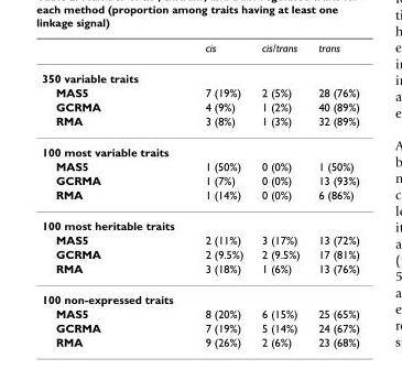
<table><thead><tr><td></td><td>cis</td><td>cis/trans</td><td>trans</td></tr></thead><tbody><tr><td colspan="4">350 variable traits</td></tr><tr><td>MAS5</td><td>7 (19%)</td><td>2 (5%)</td><td>28 (76%)</td></tr><tr><td>GCRMA</td><td>4 (9%)</td><td>1 (2%)</td><td>40 (89%)</td></tr><tr><td>RMA</td><td>3 (8%)</td><td>1 (3%)</td><td>32 (89%)</td></tr><tr><td colspan="4">100 most variable traits</td></tr><tr><td>MAS5</td><td>1 (50%)</td><td>0 (0%)</td><td>1 (50%)</td></tr><tr><td>GCRMA</td><td>1 (7%)</td><td>0 (0%)</td><td>13 (93%)</td></tr><tr><td>RMA</td><td>1 (14%)</td><td>0 (0%)</td><td>6 (86%)</td></tr><tr><td colspan="4">100 most heritable traits</td></tr><tr><td>MAS5</td><td>2 (11%)</td><td>3 (17%)</td><td>13 (72%)</td></tr><tr><td>GCRMA</td><td>2 (9.5%)</td><td>2 (9.5%)</td><td>17 (81%)</td></tr><tr><td>RMA</td><td>3 (18%)</td><td>1 (6%)</td><td>13 (76%)</td></tr><tr><td colspan="4">100 non-expressed traits</td></tr><tr><td>MAS5</td><td>8 (20%)</td><td>6 (15%)</td><td>25 (65%)</td></tr><tr><td>GCRMA</td><td>7 (19%)</td><td>5 (14%)</td><td>24 (67%)</td></tr><tr><td>RMA</td><td>9 (26%)</td><td>2 (6%)</td><td>23 (68%)</td></tr></tbody></table>